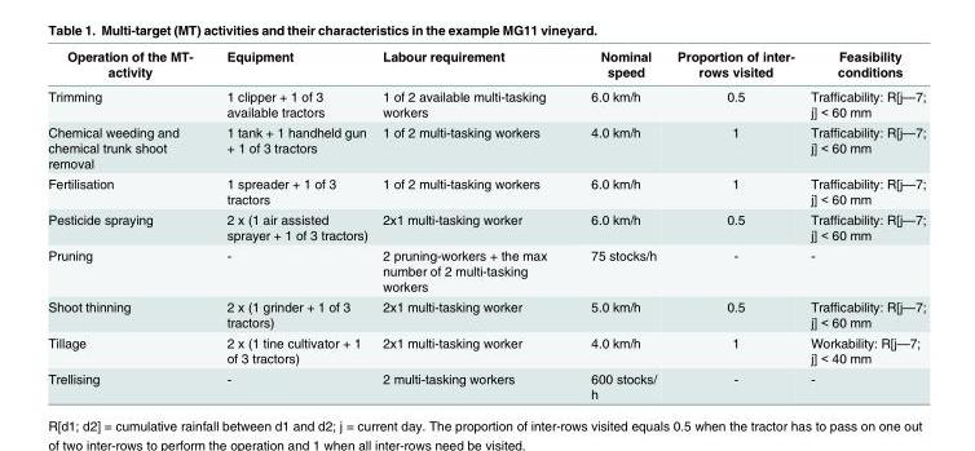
<table><thead><tr><td>Operation of the MT- activity</td><td>Equipment</td><td>Labour requirement</td><td>Nominal speed</td><td>Proportion of inter- rows visited</td><td>Feasibility conditions</td></tr></thead><tbody><tr><td>Trimming</td><td>1 clipper + 1 of 3 available tractors</td><td>1 of 2 available multi-tasking workers</td><td>6.0 km/h</td><td>0.5</td><td>Trafficability: R[j—7; j] &lt; 60 mm</td></tr><tr><td>Chemical weeding and chemical trunk shoot removal</td><td>1 tank + 1 handheld gun + 1 of 3 tractors</td><td>1 of 2 multi-tasking workers</td><td>4.0 km/h</td><td>1</td><td>Trafficability: R[j—7; j] &lt; 60 mm</td></tr><tr><td>Fertilisation</td><td>1 spreader + 1 of 3 tractors</td><td>1 of 2 multi-tasking workers</td><td>6.0 km/h</td><td>1</td><td>Trafficability: R[j—7; j] &lt; 60 mm</td></tr><tr><td>Pesticide spraying</td><td>2 x (1 air assisted sprayer + 1 of 3 tractors)</td><td>2x1 multi-tasking worker</td><td>6.0 km/h</td><td>0.5</td><td>Trafficability: R[j—7; j] &lt; 60 mm</td></tr><tr><td>Pruning</td><td>-</td><td>2 pruning-workers + the max number of 2 multi-tasking workers</td><td>75 stocks/h</td><td>-</td><td>-</td></tr><tr><td>Shoot thinning</td><td>2 x (1 grinder + 1 of 3 tractors)</td><td>2x1 multi-tasking worker</td><td>5.0 km/h</td><td>0.5</td><td>Trafficability: R[j—7; j] &lt; 60 mm</td></tr><tr><td>Tillage</td><td>2 x (1 tine cultivator + 1 of 3 tractors)</td><td>2x1 multi-tasking worker</td><td>4.0 km/h</td><td>1</td><td>Workability: R[j—7; j] &lt; 40 mm</td></tr><tr><td>Trellising</td><td>-</td><td>2 multi-tasking workers</td><td>600 stocks/ h</td><td>-</td><td>-</td></tr></tbody></table>